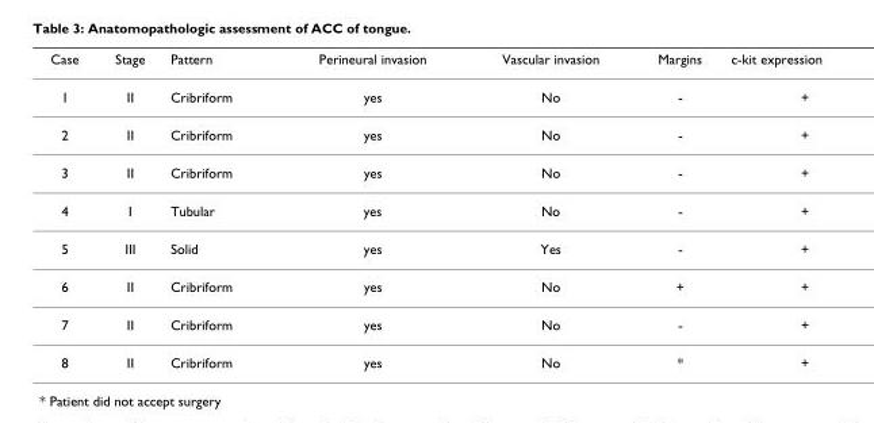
<table><thead><tr><td>Case</td><td>Stage</td><td>Pattern</td><td>Perineural invasion</td><td>Vascular invasion</td><td>Margins</td><td>c-kit expression</td></tr></thead><tbody><tr><td>1</td><td>II</td><td>Cribriform</td><td>yes</td><td>No</td><td>-</td><td>+</td></tr><tr><td>2</td><td>II</td><td>Cribriform</td><td>yes</td><td>No</td><td>-</td><td>+</td></tr><tr><td>3</td><td>II</td><td>Cribriform</td><td>yes</td><td>No</td><td>-</td><td>+</td></tr><tr><td>4</td><td>I</td><td>Tubular</td><td>yes</td><td>No</td><td>-</td><td>+</td></tr><tr><td>5</td><td>III</td><td>Solid</td><td>yes</td><td>Yes</td><td>-</td><td>+</td></tr><tr><td>6</td><td>II</td><td>Cribriform</td><td>yes</td><td>No</td><td>+</td><td>+</td></tr><tr><td>7</td><td>II</td><td>Cribriform</td><td>yes</td><td>No</td><td>-</td><td>+</td></tr><tr><td>8</td><td>II</td><td>Cribriform</td><td>yes</td><td>No</td><td>*</td><td>+</td></tr></tbody></table>